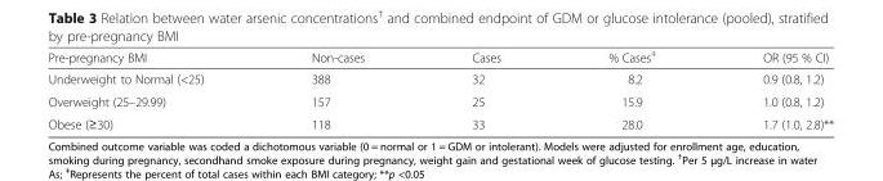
<table><thead><tr><td>Pre-pregnancy BMI</td><td>Non-cases</td><td>Cases</td><td>% Cases<sup>‡</sup></td><td>OR (95 % CI)</td></tr></thead><tbody><tr><td>Underweight to Normal (&lt;25)</td><td>388</td><td>32</td><td>8.2</td><td>0.9 (0.8, 1.2)</td></tr><tr><td>Overweight (25–29.99)</td><td>157</td><td>25</td><td>15.9</td><td>1.0 (0.8, 1.2)</td></tr><tr><td>Obese (≥30)</td><td>118</td><td>33</td><td>28.0</td><td>1.7 (1.0, 2.8)**</td></tr></tbody></table>